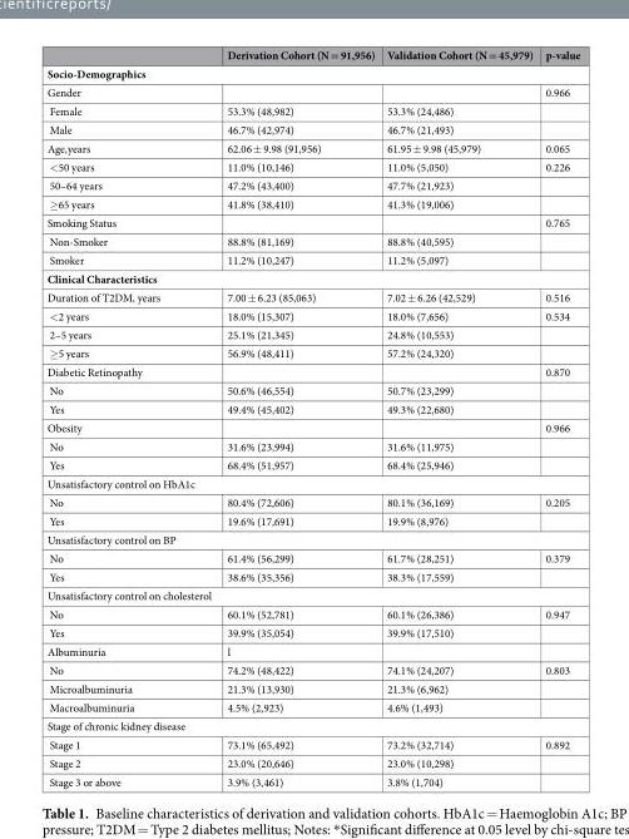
<table><thead><tr><td></td><td>Derivation Cohort (N = 91,956)</td><td>Validation Cohort (N = 45,979)</td><td>p-value</td></tr></thead><tbody><tr><td colspan="4">Socio-Demographics</td></tr><tr><td>Gender</td><td></td><td></td><td>0.966</td></tr><tr><td>Female</td><td>53.3% (48,982)</td><td>53.3% (24,486)</td><td></td></tr><tr><td>Male</td><td>46.7% (42,974)</td><td>46.7% (21,493)</td><td></td></tr><tr><td>Age,years</td><td>62.06 ± 9.98 (91,956)</td><td>61.95 ± 9.98 (45,979)</td><td>0.065</td></tr><tr><td>&lt;50 years</td><td>11.0% (10,146)</td><td>11.0% (5,050)</td><td>0.226</td></tr><tr><td>50–64 years</td><td>47.2% (43,400)</td><td>47.7% (21,923)</td><td></td></tr><tr><td>≥65 years</td><td>41.8% (38,410)</td><td>41.3% (19,006)</td><td></td></tr><tr><td>Smoking Status</td><td></td><td></td><td>0.765</td></tr><tr><td>Non-Smoker</td><td>88.8% (81,169)</td><td>88.8% (40,595)</td><td></td></tr><tr><td>Smoker</td><td>11.2% (10,247)</td><td>11.2% (5,097)</td><td></td></tr><tr><td colspan="4">Clinical Characteristics</td></tr><tr><td>Duration of T2DM, years</td><td>7.00 ± 6.23 (85,063)</td><td>7.02 ± 6.26 (42,529)</td><td>0.516</td></tr><tr><td>&lt;2 years</td><td>18.0% (15,307)</td><td>18.0% (7,656)</td><td>0.534</td></tr><tr><td>2–5 years</td><td>25.1% (21,345)</td><td>24.8% (10,553)</td><td></td></tr><tr><td>≥5 years</td><td>56.9% (48,411)</td><td>57.2% (24,320)</td><td></td></tr><tr><td>Diabetic Retinopathy</td><td></td><td></td><td>0.870</td></tr><tr><td>No</td><td>50.6% (46,554)</td><td>50.7% (23,299)</td><td></td></tr><tr><td>Yes</td><td>49.4% (45,402)</td><td>49.3% (22,680)</td><td></td></tr><tr><td>Obesity</td><td></td><td></td><td>0.966</td></tr><tr><td>No</td><td>31.6% (23,994)</td><td>31.6% (11,975)</td><td></td></tr><tr><td>Yes</td><td>68.4% (51,957)</td><td>68.4% (25,946)</td><td></td></tr><tr><td colspan="4">Unsatisfactory control on HbA1c</td></tr><tr><td>No</td><td>80.4% (72,606)</td><td>80.1% (36,169)</td><td>0.205</td></tr><tr><td>Yes</td><td>19.6% (17,691)</td><td>19.9% (8,976)</td><td></td></tr><tr><td colspan="4">Unsatisfactory control on BP</td></tr><tr><td>No</td><td>61.4% (56,299)</td><td>61.7% (28,251)</td><td>0.379</td></tr><tr><td>Yes</td><td>38.6% (35,356)</td><td>38.3% (17,559)</td><td></td></tr><tr><td colspan="4">Unsatisfactory control on cholesterol</td></tr><tr><td>No</td><td>60.1% (52,781)</td><td>60.1% (26,386)</td><td>0.947</td></tr><tr><td>Yes</td><td>39.9% (35,054)</td><td>39.9% (17,510)</td><td></td></tr><tr><td>Albuminuria</td><td>l</td><td></td><td></td></tr><tr><td>No</td><td>74.2% (48,422)</td><td>74.1% (24,207)</td><td>0.803</td></tr><tr><td>Microalbuminuria</td><td>21.3% (13,930)</td><td>21.3% (6,962)</td><td></td></tr><tr><td>Macroalbuminuria</td><td>4.5% (2,923)</td><td>4.6% (1,493)</td><td></td></tr><tr><td colspan="4">Stage of chronic kidney disease</td></tr><tr><td>Stage 1</td><td>73.1% (65,492)</td><td>73.2% (32,714)</td><td>0.892</td></tr><tr><td>Stage 2</td><td>23.0% (20,646)</td><td>23.0% (10,298)</td><td></td></tr><tr><td>Stage 3 or above</td><td>3.9% (3,461)</td><td>3.8% (1,704)</td><td></td></tr></tbody></table>